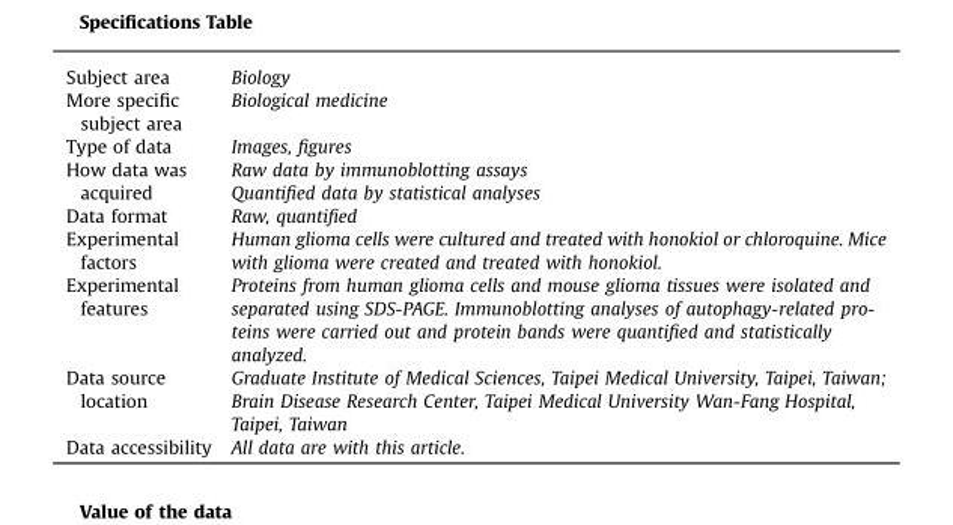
<table><tbody><tr><td>Subject area</td><td>Biology</td></tr><tr><td>More specific subject area</td><td>Biological medicine</td></tr><tr><td>Type of data</td><td>Images, figures</td></tr><tr><td rowspan="2">How data was acquired</td><td>Raw data by immunoblotting assays</td></tr><tr><td>Quantified data by statistical analyses</td></tr><tr><td>Data format</td><td>Raw, quantified</td></tr><tr><td>Experimental factors</td><td>Human glioma cells were cultured and treated with honokiol or chloroquine. Mice with glioma were created and treated with honokiol.</td></tr><tr><td>Experimental features</td><td>Proteins from human glioma cells and mouse glioma tissues were isolated and separated using SDS-PAGE. Immunoblotting analyses of autophagy-related pro- teins were carried out and protein bands were quantified and statistically analyzed.</td></tr><tr><td>Data source location</td><td>Graduate Institute of Medical Sciences, Taipei Medical University, Taipei, Taiwan; Brain Disease Research Center, Taipei Medical University Wan-Fang Hospital, Taipei, Taiwan</td></tr><tr><td>Data accessibility</td><td>All data are with this article.</td></tr></tbody></table>